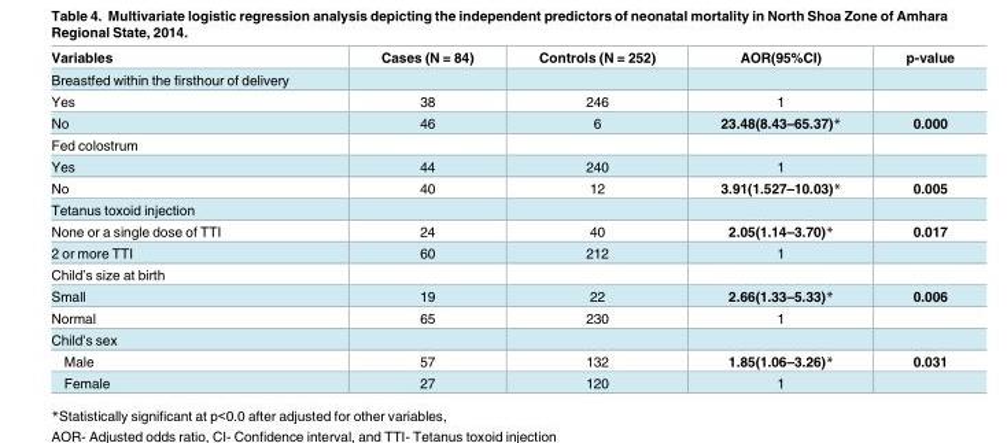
<table><thead><tr><td>Variables</td><td>Cases (N = 84)</td><td>Controls (N = 252)</td><td>AOR(95%CI)</td><td>p-value</td></tr></thead><tbody><tr><td colspan="5">Breastfed within the firsthour of delivery</td></tr><tr><td>Yes</td><td>38</td><td>246</td><td>1</td><td></td></tr><tr><td>No</td><td>46</td><td>6</td><td>23.48(8.43–65.37)*</td><td>0.000</td></tr><tr><td colspan="5">Fed colostrum</td></tr><tr><td>Yes</td><td>44</td><td>240</td><td>1</td><td></td></tr><tr><td>No</td><td>40</td><td>12</td><td>3.91(1.527–10.03)*</td><td>0.005</td></tr><tr><td colspan="5">Tetanus toxoid injection</td></tr><tr><td>None or a single dose of TTI</td><td>24</td><td>40</td><td>2.05(1.14–3.70)*</td><td>0.017</td></tr><tr><td>2 or more TTI</td><td>60</td><td>212</td><td>1</td><td></td></tr><tr><td colspan="5">Child’s size at birth</td></tr><tr><td>Small</td><td>19</td><td>22</td><td>2.66(1.33–5.33)*</td><td>0.006</td></tr><tr><td>Normal</td><td>65</td><td>230</td><td>1</td><td></td></tr><tr><td colspan="5">Child’s sex</td></tr><tr><td>Male</td><td>57</td><td>132</td><td>1.85(1.06–3.26)*</td><td>0.031</td></tr><tr><td>Female</td><td>27</td><td>120</td><td>1</td><td></td></tr></tbody></table>